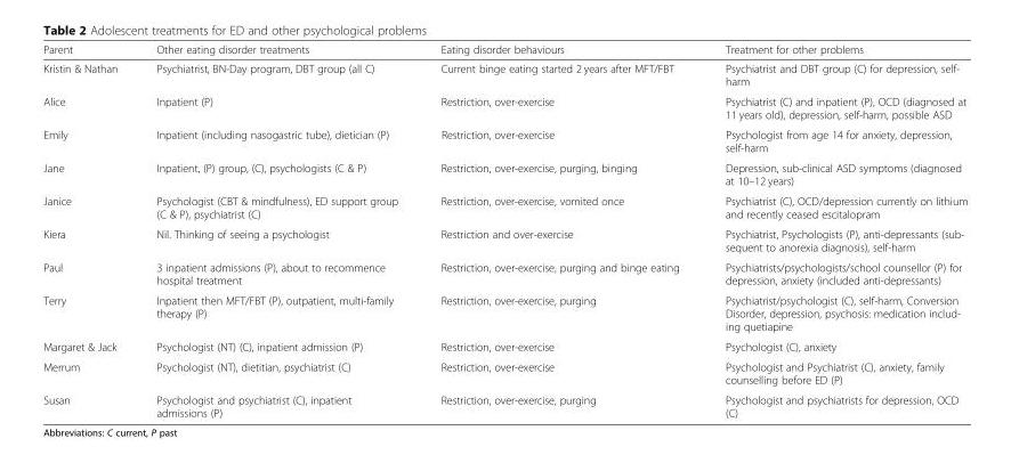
<table><thead><tr><td>Parent</td><td>Other eating disorder treatments</td><td>Eating disorder behaviours</td><td>Treatment for other problems</td></tr></thead><tbody><tr><td>Kristin &amp; Nathan</td><td>Psychiatrist, BN-Day program, DBT group (all C)</td><td>Current binge eating started 2 years after MFT/FBT</td><td>Psychiatrist and DBT group (C) for depression, self- harm</td></tr><tr><td>Alice</td><td>Inpatient (P)</td><td>Restriction, over-exercise</td><td>Psychiatrist (C) and inpatient (P), OCD (diagnosed at 11 years old), depression, self-harm, possible ASD</td></tr><tr><td>Emily</td><td>Inpatient (including nasogastric tube), dietician (P)</td><td>Restriction, over-exercise</td><td>Psychologist from age 14 for anxiety, depression, self-harm</td></tr><tr><td>Jane</td><td>Inpatient, (P) group, (C), psychologists (C &amp; P)</td><td>Restriction, over-exercise, purging, binging</td><td>Depression, sub-clinical ASD symptoms (diagnosed at 10–12 years)</td></tr><tr><td>Janice</td><td>Psychologist (CBT &amp; mindfulness), ED support group (C &amp; P), psychiatrist (C)</td><td>Restriction, over-exercise, vomited once</td><td>Psychiatrist (C), OCD/depression currently on lithium and recently ceased escitalopram</td></tr><tr><td>Kiera</td><td>Nil. Thinking of seeing a psychologist</td><td>Restriction and over-exercise</td><td>Psychiatrist, Psychologists (P), anti-depressants (sub- sequent to anorexia diagnosis), self-harm</td></tr><tr><td>Paul</td><td>3 inpatient admissions (P), about to recommence hospital treatment</td><td>Restriction, over-exercise, purging and binge eating</td><td>Psychiatrists/psychologists/school counsellor (P) for depression, anxiety (included anti-depressants)</td></tr><tr><td>Terry</td><td>Inpatient then MFT/FBT (P), outpatient, multi-family therapy (P)</td><td>Restriction, over-exercise, purging</td><td>Psychiatrist/psychologist (C), self-harm, Conversion Disorder, depression, psychosis: medication includ- ing quetiapine</td></tr><tr><td>Margaret &amp; Jack</td><td>Psychologist (NT) (C), inpatient admission (P)</td><td>Restriction, over-exercise</td><td>Psychologist (C), anxiety</td></tr><tr><td>Merrum</td><td>Psychologist (NT), dietitian, psychiatrist (C)</td><td>Restriction, over-exercise</td><td>Psychologist and Psychiatrist (C), anxiety, family counselling before ED (P)</td></tr><tr><td>Susan</td><td>Psychologist and psychiatrist (C), inpatient admissions (P)</td><td>Restriction, over-exercise, purging</td><td>Psychologist and psychiatrists for depression, OCD (C)</td></tr></tbody></table>